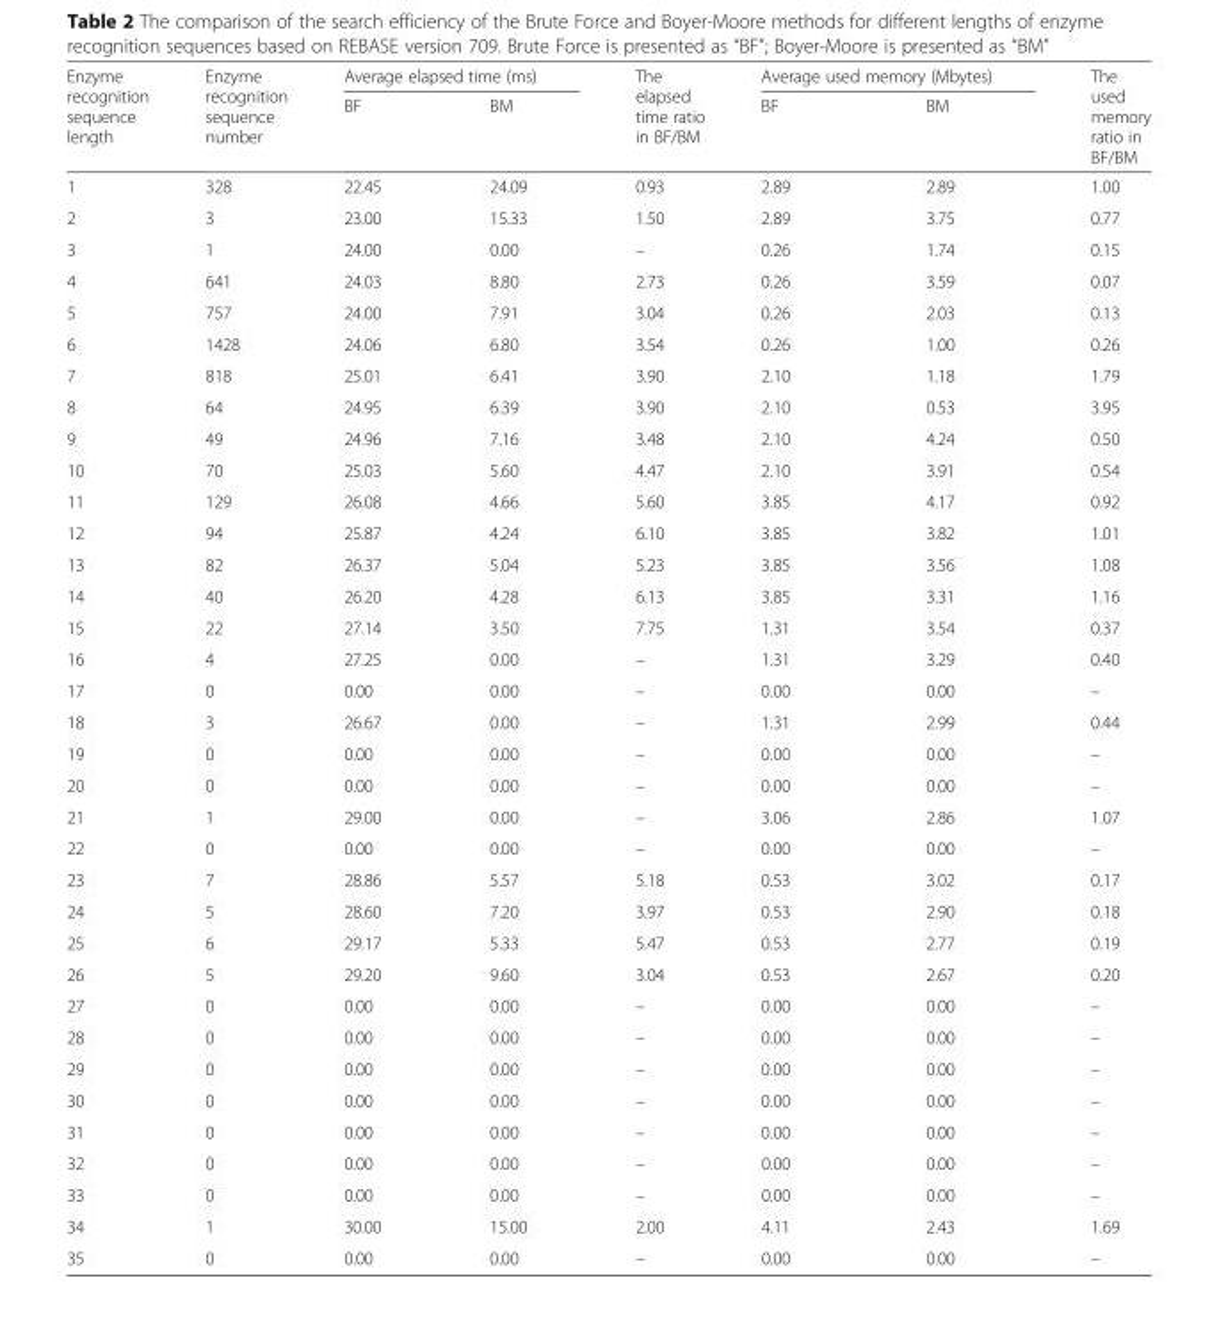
<table><thead><tr><td rowspan="2">Enzyme recognition sequence length</td><td rowspan="2">Enzyme recognition sequence number</td><td colspan="2">Average elapsed time (ms)</td><td rowspan="2">The elapsed time ratio in BF/BM</td><td colspan="2">Average used memory (Mbytes)</td><td rowspan="2">The used memory ratio in BF/BM</td></tr><tr><td>BF</td><td>BM</td><td>BF</td><td>BM</td></tr></thead><tbody><tr><td>1</td><td>328</td><td>22.45</td><td>24.09</td><td>0.93</td><td>2.89</td><td>2.89</td><td>1.00</td></tr><tr><td>2</td><td>3</td><td>23.00</td><td>15.33</td><td>1.50</td><td>2.89</td><td>3.75</td><td>0.77</td></tr><tr><td>3</td><td>1</td><td>24.00</td><td>0.00</td><td>–</td><td>0.26</td><td>1.74</td><td>0.15</td></tr><tr><td>4</td><td>641</td><td>24.03</td><td>8.80</td><td>2.73</td><td>0.26</td><td>3.59</td><td>0.07</td></tr><tr><td>5</td><td>757</td><td>24.00</td><td>7.91</td><td>3.04</td><td>0.26</td><td>2.03</td><td>0.13</td></tr><tr><td>6</td><td>1428</td><td>24.06</td><td>6.80</td><td>3.54</td><td>0.26</td><td>1.00</td><td>0.26</td></tr><tr><td>7</td><td>818</td><td>25.01</td><td>6.41</td><td>3.90</td><td>2.10</td><td>1.18</td><td>1.79</td></tr><tr><td>8</td><td>64</td><td>24.95</td><td>6.39</td><td>3.90</td><td>2.10</td><td>0.53</td><td>3.95</td></tr><tr><td>9</td><td>49</td><td>24.96</td><td>7.16</td><td>3.48</td><td>2.10</td><td>4.24</td><td>0.50</td></tr><tr><td>10</td><td>70</td><td>25.03</td><td>5.60</td><td>4.47</td><td>2.10</td><td>3.91</td><td>0.54</td></tr><tr><td>11</td><td>129</td><td>26.08</td><td>4.66</td><td>5.60</td><td>3.85</td><td>4.17</td><td>0.92</td></tr><tr><td>12</td><td>94</td><td>25.87</td><td>4.24</td><td>6.10</td><td>3.85</td><td>3.82</td><td>1.01</td></tr><tr><td>13</td><td>82</td><td>26.37</td><td>5.04</td><td>5.23</td><td>3.85</td><td>3.56</td><td>1.08</td></tr><tr><td>14</td><td>40</td><td>26.20</td><td>4.28</td><td>6.13</td><td>3.85</td><td>3.31</td><td>1.16</td></tr><tr><td>15</td><td>22</td><td>27.14</td><td>3.50</td><td>7.75</td><td>1.31</td><td>3.54</td><td>0.37</td></tr><tr><td>16</td><td>4</td><td>27.25</td><td>0.00</td><td>–</td><td>1.31</td><td>3.29</td><td>0.40</td></tr><tr><td>17</td><td>0</td><td>0.00</td><td>0.00</td><td>–</td><td>0.00</td><td>0.00</td><td>–</td></tr><tr><td>18</td><td>3</td><td>26.67</td><td>0.00</td><td>–</td><td>1.31</td><td>2.99</td><td>0.44</td></tr><tr><td>19</td><td>0</td><td>0.00</td><td>0.00</td><td>–</td><td>0.00</td><td>0.00</td><td>–</td></tr><tr><td>20</td><td>0</td><td>0.00</td><td>0.00</td><td>–</td><td>0.00</td><td>0.00</td><td>–</td></tr><tr><td>21</td><td>1</td><td>29.00</td><td>0.00</td><td>–</td><td>3.06</td><td>2.86</td><td>1.07</td></tr><tr><td>22</td><td>0</td><td>0.00</td><td>0.00</td><td>–</td><td>0.00</td><td>0.00</td><td>–</td></tr><tr><td>23</td><td>7</td><td>28.86</td><td>5.57</td><td>5.18</td><td>0.53</td><td>3.02</td><td>0.17</td></tr><tr><td>24</td><td>5</td><td>28.60</td><td>7.20</td><td>3.97</td><td>0.53</td><td>2.90</td><td>0.18</td></tr><tr><td>25</td><td>6</td><td>29.17</td><td>5.33</td><td>5.47</td><td>0.53</td><td>2.77</td><td>0.19</td></tr><tr><td>26</td><td>5</td><td>29.20</td><td>9.60</td><td>3.04</td><td>0.53</td><td>2.67</td><td>0.20</td></tr><tr><td>27</td><td>0</td><td>0.00</td><td>0.00</td><td>–</td><td>0.00</td><td>0.00</td><td>–</td></tr><tr><td>28</td><td>0</td><td>0.00</td><td>0.00</td><td>–</td><td>0.00</td><td>0.00</td><td>–</td></tr><tr><td>29</td><td>0</td><td>0.00</td><td>0.00</td><td>–</td><td>0.00</td><td>0.00</td><td>–</td></tr><tr><td>30</td><td>0</td><td>0.00</td><td>0.00</td><td>–</td><td>0.00</td><td>0.00</td><td>–</td></tr><tr><td>31</td><td>0</td><td>0.00</td><td>0.00</td><td>–</td><td>0.00</td><td>0.00</td><td>–</td></tr><tr><td>32</td><td>0</td><td>0.00</td><td>0.00</td><td>–</td><td>0.00</td><td>0.00</td><td>–</td></tr><tr><td>33</td><td>0</td><td>0.00</td><td>0.00</td><td>–</td><td>0.00</td><td>0.00</td><td>–</td></tr><tr><td>34</td><td>1</td><td>30.00</td><td>15.00</td><td>2.00</td><td>4.11</td><td>2.43</td><td>1.69</td></tr><tr><td>35</td><td>0</td><td>0.00</td><td>0.00</td><td>–</td><td>0.00</td><td>0.00</td><td>–</td></tr></tbody></table>